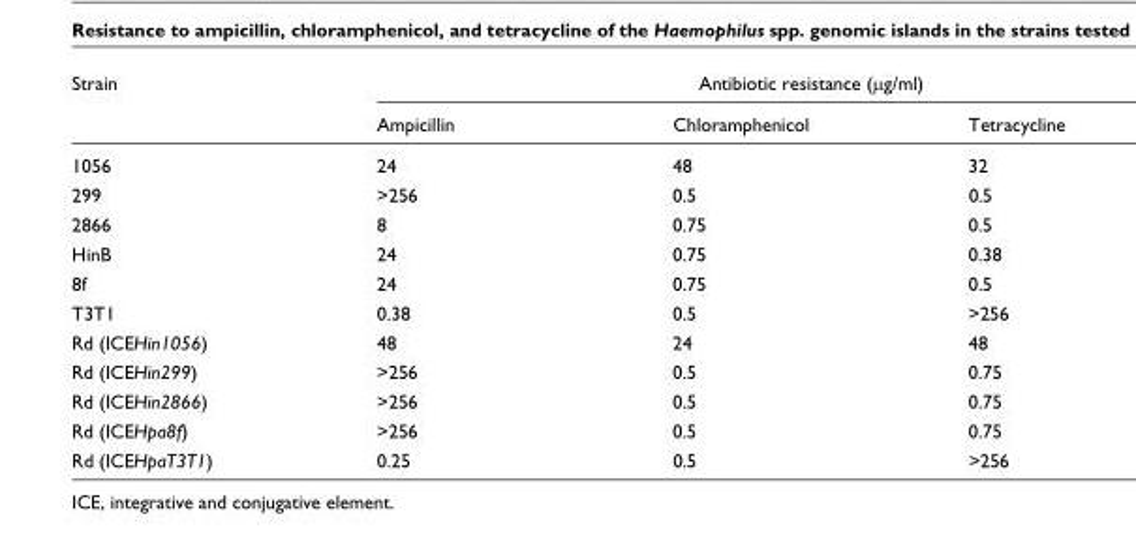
<table><thead><tr><td rowspan="2">Strain</td><td colspan="3">Antibiotic resistance (μg/ml)</td></tr><tr><td>Ampicillin</td><td>Chloramphenicol</td><td>Tetracycline</td></tr></thead><tbody><tr><td>1056</td><td>24</td><td>48</td><td>32</td></tr><tr><td>299</td><td>&gt;256</td><td>0.5</td><td>0.5</td></tr><tr><td>2866</td><td>8</td><td>0.75</td><td>0.5</td></tr><tr><td>HinB</td><td>24</td><td>0.75</td><td>0.38</td></tr><tr><td>8f</td><td>24</td><td>0.75</td><td>0.5</td></tr><tr><td>T3T1</td><td>0.38</td><td>0.5</td><td>&gt;256</td></tr><tr><td>Rd (ICEHin1056)</td><td>48</td><td>24</td><td>48</td></tr><tr><td>Rd (ICEHin299)</td><td>&gt;256</td><td>0.5</td><td>0.75</td></tr><tr><td>Rd (ICEHin2866)</td><td>&gt;256</td><td>0.5</td><td>0.75</td></tr><tr><td>Rd (ICEHpa8f)</td><td>&gt;256</td><td>0.5</td><td>0.75</td></tr><tr><td>Rd (ICEHpaT3T1)</td><td>0.25</td><td>0.5</td><td>&gt;256</td></tr></tbody></table>